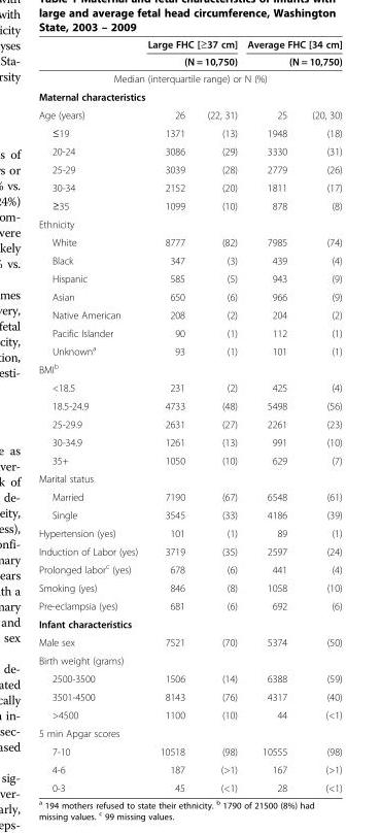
<table><thead><tr><td rowspan="2"></td><td rowspan="2" colspan="2">Large FHC [≥37 cm] (N = 10,750)</td><td rowspan="2" colspan="2">Average FHC [34 cm] (N = 10,750)</td></tr><tr></tr><tr><td rowspan="2" colspan="5">Median (interquartile range) or N (%) Maternal characteristics</td></tr><tr></tr><tr><td>Age (years)</td><td>26</td><td>(22, 31)</td><td>25</td><td>(20, 30)</td></tr></thead><tbody><tr><td>≤19</td><td>1371</td><td>(13)</td><td>1948</td><td>(18)</td></tr><tr><td>20-24</td><td>3086</td><td>(29)</td><td>3330</td><td>(31)</td></tr><tr><td>25-29</td><td>3039</td><td>(28)</td><td>2779</td><td>(26)</td></tr><tr><td>30-34</td><td>2152</td><td>(20)</td><td>1811</td><td>(17)</td></tr><tr><td>≥35</td><td>1099</td><td>(10)</td><td>878</td><td>(8)</td></tr><tr><td colspan="5">Ethnicity</td></tr><tr><td>White</td><td>8777</td><td>(82)</td><td>7985</td><td>(74)</td></tr><tr><td>Black</td><td>347</td><td>(3)</td><td>439</td><td>(4)</td></tr><tr><td>Hispanic</td><td>585</td><td>(5)</td><td>943</td><td>(9)</td></tr><tr><td>Asian</td><td>650</td><td>(6)</td><td>966</td><td>(9)</td></tr><tr><td>Native American</td><td>208</td><td>(2)</td><td>204</td><td>(2)</td></tr><tr><td>Pacific Islander</td><td>90</td><td>(1)</td><td>112</td><td>(1)</td></tr><tr><td>Unknown<sup>a</sup></td><td>93</td><td>(1)</td><td>101</td><td>(1)</td></tr><tr><td colspan="5">BMI<sup>b</sup></td></tr><tr><td>&lt;18.5</td><td>231</td><td>(2)</td><td>425</td><td>(4)</td></tr><tr><td>18.5-24.9</td><td>4733</td><td>(48)</td><td>5498</td><td>(56)</td></tr><tr><td>25-29.9</td><td>2631</td><td>(27)</td><td>2261</td><td>(23)</td></tr><tr><td>30-34.9</td><td>1261</td><td>(13)</td><td>991</td><td>(10)</td></tr><tr><td>35+</td><td>1050</td><td>(10)</td><td>629</td><td>(7)</td></tr><tr><td colspan="5">Marital status</td></tr><tr><td>Married</td><td>7190</td><td>(67)</td><td>6548</td><td>(61)</td></tr><tr><td>Single</td><td>3545</td><td>(33)</td><td>4186</td><td>(39)</td></tr><tr><td>Hypertension (yes)</td><td>101</td><td>(1)</td><td>89</td><td>(1)</td></tr><tr><td>Induction of Labor (yes)</td><td>3719</td><td>(35)</td><td>2597</td><td>(24)</td></tr><tr><td>Prolonged labor<sup>c</sup> (yes)</td><td>678</td><td>(6)</td><td>441</td><td>(4)</td></tr><tr><td>Smoking (yes)</td><td>846</td><td>(8)</td><td>1058</td><td>(10)</td></tr><tr><td>Pre-eclampsia (yes)</td><td>681</td><td>(6)</td><td>692</td><td>(6)</td></tr><tr><td colspan="5">Infant characteristics</td></tr><tr><td>Male sex</td><td>7521</td><td>(70)</td><td>5374</td><td>(50)</td></tr><tr><td colspan="5">Birth weight (grams)</td></tr><tr><td>2500-3500</td><td>1506</td><td>(14)</td><td>6388</td><td>(59)</td></tr><tr><td>3501-4500</td><td>8143</td><td>(76)</td><td>4317</td><td>(40)</td></tr><tr><td>&gt;4500</td><td>1100</td><td>(10)</td><td>44</td><td>(&lt;1)</td></tr><tr><td colspan="5">5 min Apgar scores</td></tr><tr><td>7-10</td><td>10518</td><td>(98)</td><td>10555</td><td>(98)</td></tr><tr><td>4-6</td><td>187</td><td>(&gt;1)</td><td>167</td><td>(&gt;1)</td></tr><tr><td>0-3</td><td>45</td><td>(&lt;1)</td><td>28</td><td>(&lt;1)</td></tr></tbody></table>